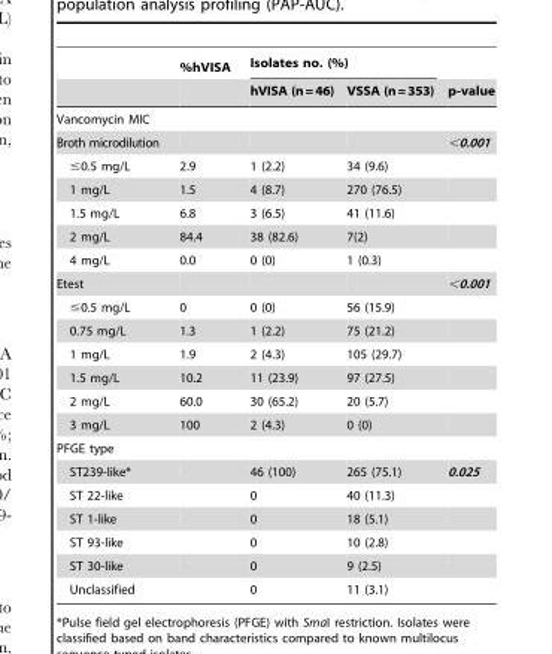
<table><thead><tr><td rowspan="2"></td><td rowspan="2">%hVISA</td><td colspan="2">Isolates no. (%)</td><td rowspan="2">p-value</td></tr><tr><td>hVISA (n=46)</td><td>VSSA (n=353)</td></tr></thead><tbody><tr><td colspan="5">Vancomycin MIC</td></tr><tr><td>Broth microdilution</td><td></td><td></td><td></td><td>&lt;0.001</td></tr><tr><td>≤0.5 mg/L</td><td>2.9</td><td>1 (2.2)</td><td>34 (9.6)</td><td></td></tr><tr><td>1 mg/L</td><td>1.5</td><td>4 (8.7)</td><td>270 (76.5)</td><td></td></tr><tr><td>1.5 mg/L</td><td>6.8</td><td>3 (6.5)</td><td>41 (11.6)</td><td></td></tr><tr><td>2 mg/L</td><td>84.4</td><td>38 (82.6)</td><td>7(2)</td><td></td></tr><tr><td>4 mg/L</td><td>0.0</td><td>0 (0)</td><td>1 (0.3)</td><td></td></tr><tr><td>Etest</td><td></td><td></td><td></td><td>&lt;0.001</td></tr><tr><td>≤0.5 mg/L</td><td>0</td><td>0 (0)</td><td>56 (15.9)</td><td></td></tr><tr><td>0.75 mg/L</td><td>1.3</td><td>1 (2.2)</td><td>75 (21.2)</td><td></td></tr><tr><td>1 mg/L</td><td>1.9</td><td>2 (4.3)</td><td>105 (29.7)</td><td></td></tr><tr><td>1.5 mg/L</td><td>10.2</td><td>11 (23.9)</td><td>97 (27.5)</td><td></td></tr><tr><td>2 mg/L</td><td>60.0</td><td>30 (65.2)</td><td>20 (5.7)</td><td></td></tr><tr><td>3 mg/L</td><td>100</td><td>2 (4.3)</td><td>0 (0)</td><td></td></tr><tr><td colspan="5">PFGE type</td></tr><tr><td>ST239-like*</td><td></td><td>46 (100)</td><td>265 (75.1)</td><td>0.025</td></tr><tr><td>ST 22-like</td><td></td><td>0</td><td>40 (11.3)</td><td></td></tr><tr><td>ST 1-like</td><td></td><td>0</td><td>18 (5.1)</td><td></td></tr><tr><td>ST 93-like</td><td></td><td>0</td><td>10 (2.8)</td><td></td></tr><tr><td>ST 30-like</td><td></td><td>0</td><td>9 (2.5)</td><td></td></tr><tr><td>Unclassified</td><td></td><td>0</td><td>11 (3.1)</td><td></td></tr></tbody></table>